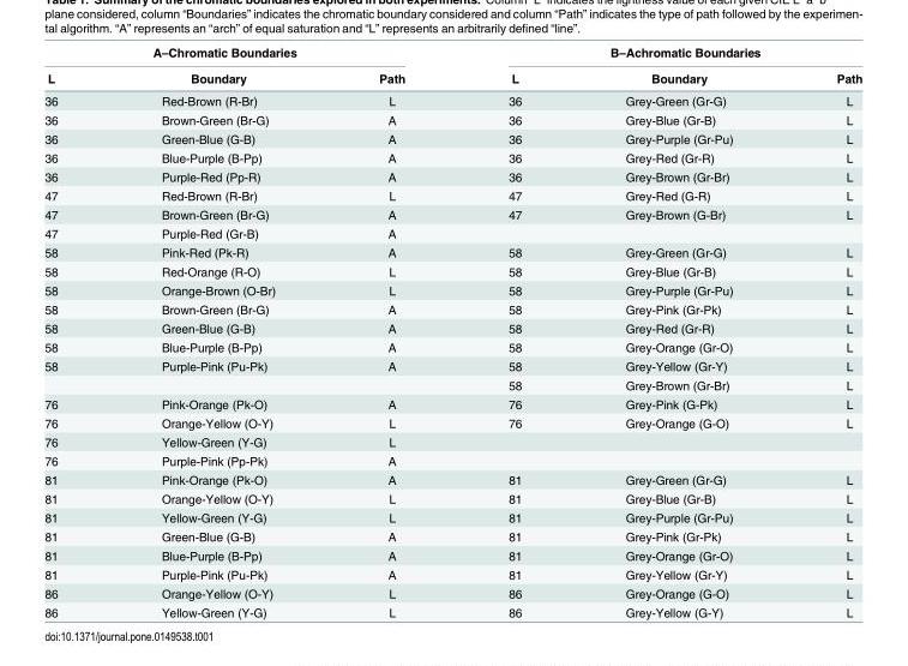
<table><thead><tr><td colspan="3">A–Chromatic Boundaries</td><td colspan="3">B–Achromatic Boundaries</td></tr><tr><td>L</td><td>Boundary</td><td>Path</td><td>L</td><td>Boundary</td><td>Path</td></tr></thead><tbody><tr><td>36</td><td>Red-Brown (R-Br)</td><td>L</td><td>36</td><td>Grey-Green (Gr-G)</td><td>L</td></tr><tr><td>36</td><td>Brown-Green (Br-G)</td><td>A</td><td>36</td><td>Grey-Blue (Gr-B)</td><td>L</td></tr><tr><td>36</td><td>Green-Blue (G-B)</td><td>A</td><td>36</td><td>Grey-Purple (Gr-Pu)</td><td>L</td></tr><tr><td>36</td><td>Blue-Purple (B-Pp)</td><td>A</td><td>36</td><td>Grey-Red (Gr-R)</td><td>L</td></tr><tr><td>36</td><td>Purple-Red (Pp-R)</td><td>A</td><td>36</td><td>Grey-Brown (Gr-Br)</td><td>L</td></tr><tr><td>47</td><td>Red-Brown (R-Br)</td><td>L</td><td>47</td><td>Grey-Red (G-R)</td><td>L</td></tr><tr><td>47</td><td>Brown-Green (Br-G)</td><td>A</td><td>47</td><td>Grey-Brown (G-Br)</td><td>L</td></tr><tr><td>47</td><td>Purple-Red (Gr-B)</td><td>A</td><td></td><td></td><td></td></tr><tr><td>58</td><td>Pink-Red (Pk-R)</td><td>A</td><td>58</td><td>Grey-Green (Gr-G)</td><td>L</td></tr><tr><td>58</td><td>Red-Orange (R-O)</td><td>L</td><td>58</td><td>Grey-Blue (Gr-B)</td><td>L</td></tr><tr><td>58</td><td>Orange-Brown (O-Br)</td><td>L</td><td>58</td><td>Grey-Purple (Gr-Pu)</td><td>L</td></tr><tr><td>58</td><td>Brown-Green (Br-G)</td><td>A</td><td>58</td><td>Grey-Pink (Gr-Pk)</td><td>L</td></tr><tr><td>58</td><td>Green-Blue (G-B)</td><td>A</td><td>58</td><td>Grey-Red (Gr-R)</td><td>L</td></tr><tr><td>58</td><td>Blue-Purple (B-Pp)</td><td>A</td><td>58</td><td>Grey-Orange (Gr-O)</td><td>L</td></tr><tr><td rowspan="2">58</td><td>Purple-Pink (Pu-Pk)</td><td>A</td><td>58</td><td>Grey-Yellow (Gr-Y)</td><td>L</td></tr><tr><td></td><td></td><td>58</td><td>Grey-Brown (Gr-Br)</td><td>L</td></tr><tr><td>76</td><td>Pink-Orange (Pk-O)</td><td>A</td><td>76</td><td>Grey-Pink (G-Pk)</td><td>L</td></tr><tr><td>76</td><td>Orange-Yellow (O-Y)</td><td>L</td><td>76</td><td>Grey-Orange (G-O)</td><td>L</td></tr><tr><td>76</td><td>Yellow-Green (Y-G)</td><td>L</td><td></td><td></td><td></td></tr><tr><td>76</td><td>Purple-Pink (Pp-Pk)</td><td>A</td><td></td><td></td><td></td></tr><tr><td>81</td><td>Pink-Orange (Pk-O)</td><td>A</td><td>81</td><td>Grey-Green (Gr-G)</td><td>L</td></tr><tr><td>81</td><td>Orange-Yellow (O-Y)</td><td>L</td><td>81</td><td>Grey-Blue (Gr-B)</td><td>L</td></tr><tr><td>81</td><td>Yellow-Green (Y-G)</td><td>L</td><td>81</td><td>Grey-Purple (Gr-Pu)</td><td>L</td></tr><tr><td>81</td><td>Green-Blue (G-B)</td><td>A</td><td>81</td><td>Grey-Pink (Gr-Pk)</td><td>L</td></tr><tr><td>81</td><td>Blue-Purple (B-Pp)</td><td>A</td><td>81</td><td>Grey-Orange (Gr-O)</td><td>L</td></tr><tr><td>81</td><td>Purple-Pink (Pu-Pk)</td><td>A</td><td>81</td><td>Grey-Yellow (Gr-Y)</td><td>L</td></tr><tr><td>86</td><td>Orange-Yellow (O-Y)</td><td>L</td><td>86</td><td>Grey-Orange (G-O)</td><td>L</td></tr><tr><td>86</td><td>Yellow-Green (Y-G)</td><td>L</td><td>86</td><td>Grey-Yellow (G-Y)</td><td>L</td></tr></tbody></table>